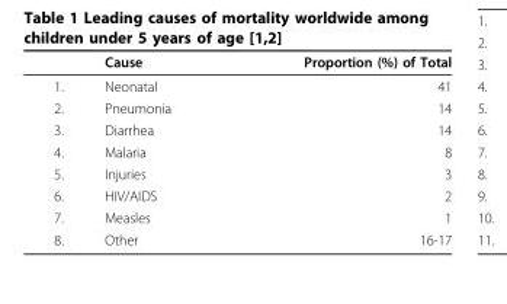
<table><thead><tr><td></td><td>Cause</td><td>Proportion (%) of Total</td></tr></thead><tbody><tr><td>1.</td><td>Neonatal</td><td>41</td></tr><tr><td>2.</td><td>Pneumonia</td><td>14</td></tr><tr><td>3.</td><td>Diarrhea</td><td>14</td></tr><tr><td>4.</td><td>Malaria</td><td>8</td></tr><tr><td>5.</td><td>Injuries</td><td>3</td></tr><tr><td>6.</td><td>HIV/AIDS</td><td>2</td></tr><tr><td>7.</td><td>Measles</td><td>1</td></tr><tr><td>8.</td><td>Other</td><td>16-17</td></tr></tbody></table>